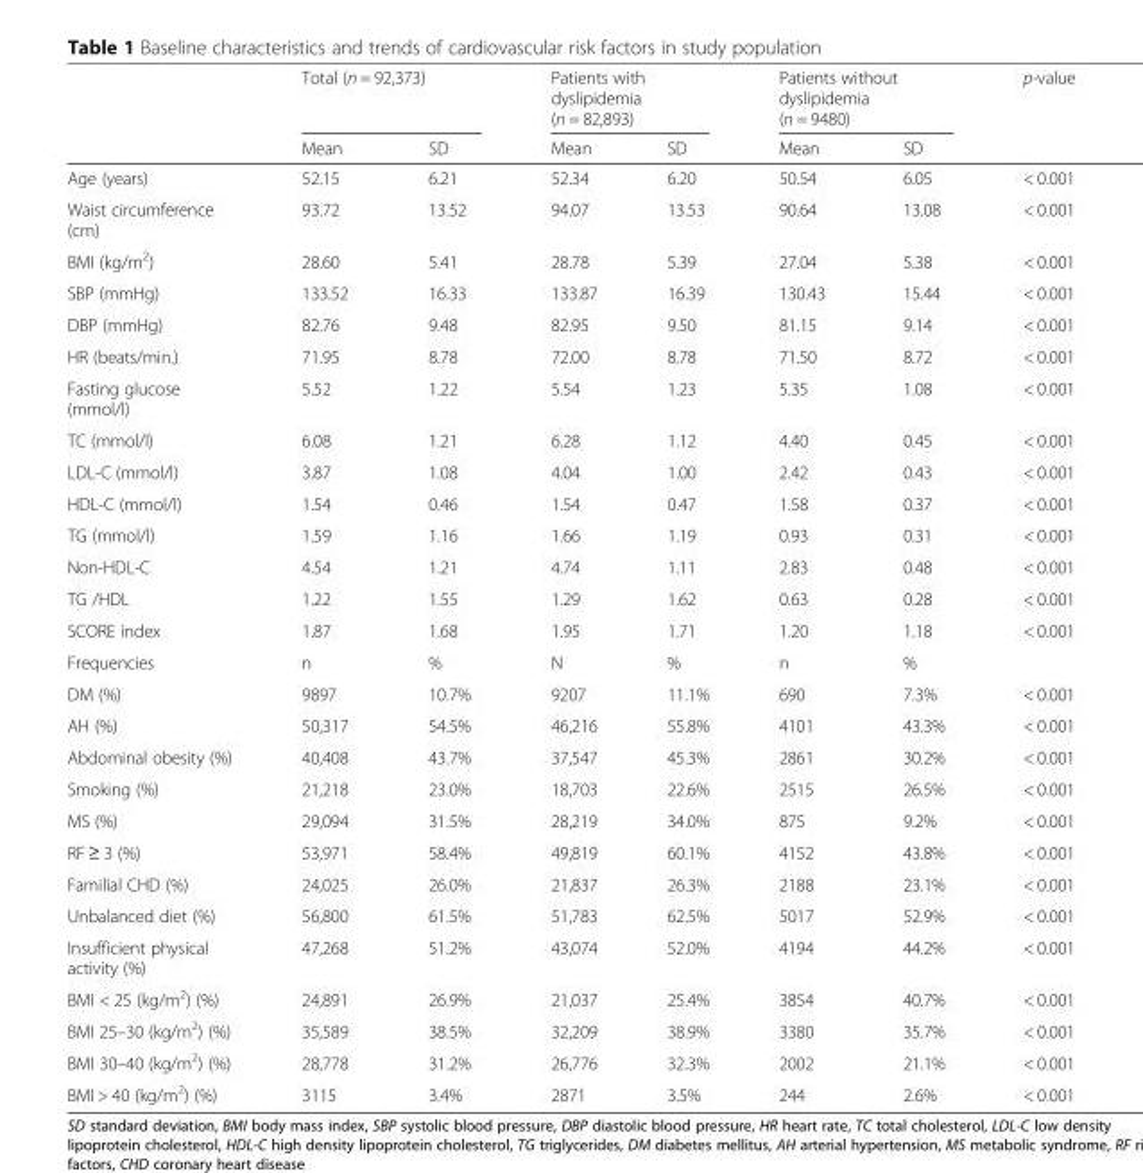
<table><thead><tr><td rowspan="2"></td><td colspan="2">Total (n = 92,373)</td><td colspan="2">Patients with dyslipidemia (n = 82,893)</td><td colspan="2">Patients without dyslipidemia (n = 9480)</td><td rowspan="2">p-value</td></tr><tr><td>Mean</td><td>SD</td><td>Mean</td><td>SD</td><td>Mean</td><td>SD</td></tr></thead><tbody><tr><td>Age (years)</td><td>52.15</td><td>6.21</td><td>52.34</td><td>6.20</td><td>50.54</td><td>6.05</td><td>&lt; 0.001</td></tr><tr><td>Waist circumference (cm)</td><td>93.72</td><td>13.52</td><td>94.07</td><td>13.53</td><td>90.64</td><td>13.08</td><td>&lt; 0.001</td></tr><tr><td>BMI (kg/m<sup>2</sup>)</td><td>28.60</td><td>5.41</td><td>28.78</td><td>5.39</td><td>27.04</td><td>5.38</td><td>&lt; 0.001</td></tr><tr><td>SBP (mmHg)</td><td>133.52</td><td>16.33</td><td>133.87</td><td>16.39</td><td>130.43</td><td>15.44</td><td>&lt; 0.001</td></tr><tr><td>DBP (mmHg)</td><td>82.76</td><td>9.48</td><td>82.95</td><td>9.50</td><td>81.15</td><td>9.14</td><td>&lt; 0.001</td></tr><tr><td>HR (beats/min.)</td><td>71.95</td><td>8.78</td><td>72.00</td><td>8.78</td><td>71.50</td><td>8.72</td><td>&lt; 0.001</td></tr><tr><td>Fasting glucose (mmol/l)</td><td>5.52</td><td>1.22</td><td>5.54</td><td>1.23</td><td>5.35</td><td>1.08</td><td>&lt; 0.001</td></tr><tr><td>TC (mmol/l)</td><td>6.08</td><td>1.21</td><td>6.28</td><td>1.12</td><td>4.40</td><td>0.45</td><td>&lt; 0.001</td></tr><tr><td>LDL-C (mmol/l)</td><td>3.87</td><td>1.08</td><td>4.04</td><td>1.00</td><td>2.42</td><td>0.43</td><td>&lt; 0.001</td></tr><tr><td>HDL-C (mmol/l)</td><td>1.54</td><td>0.46</td><td>1.54</td><td>0.47</td><td>1.58</td><td>0.37</td><td>&lt; 0.001</td></tr><tr><td>TG (mmol/l)</td><td>1.59</td><td>1.16</td><td>1.66</td><td>1.19</td><td>0.93</td><td>0.31</td><td>&lt; 0.001</td></tr><tr><td>Non-HDL-C</td><td>4.54</td><td>1.21</td><td>4.74</td><td>1.11</td><td>2.83</td><td>0.48</td><td>&lt; 0.001</td></tr><tr><td>TG /HDL</td><td>1.22</td><td>1.55</td><td>1.29</td><td>1.62</td><td>0.63</td><td>0.28</td><td>&lt; 0.001</td></tr><tr><td>SCORE index</td><td>1.87</td><td>1.68</td><td>1.95</td><td>1.71</td><td>1.20</td><td>1.18</td><td>&lt; 0.001</td></tr><tr><td>Frequencies</td><td>n</td><td>%</td><td>N</td><td>%</td><td>n</td><td>%</td><td></td></tr><tr><td>DM (%)</td><td>9897</td><td>10.7%</td><td>9207</td><td>11.1%</td><td>690</td><td>7.3%</td><td>&lt; 0.001</td></tr><tr><td>AH (%)</td><td>50,317</td><td>54.5%</td><td>46,216</td><td>55.8%</td><td>4101</td><td>43.3%</td><td>&lt; 0.001</td></tr><tr><td>Abdominal obesity (%)</td><td>40,408</td><td>43.7%</td><td>37,547</td><td>45.3%</td><td>2861</td><td>30.2%</td><td>&lt; 0.001</td></tr><tr><td>Smoking (%)</td><td>21,218</td><td>23.0%</td><td>18,703</td><td>22.6%</td><td>2515</td><td>26.5%</td><td>&lt; 0.001</td></tr><tr><td>MS (%)</td><td>29,094</td><td>31.5%</td><td>28,219</td><td>34.0%</td><td>875</td><td>9.2%</td><td>&lt; 0.001</td></tr><tr><td>RF ≥ 3 (%)</td><td>53,971</td><td>58.4%</td><td>49,819</td><td>60.1%</td><td>4152</td><td>43.8%</td><td>&lt; 0.001</td></tr><tr><td>Familial CHD (%)</td><td>24,025</td><td>26.0%</td><td>21,837</td><td>26.3%</td><td>2188</td><td>23.1%</td><td>&lt; 0.001</td></tr><tr><td>Unbalanced diet (%)</td><td>56,800</td><td>61.5%</td><td>51,783</td><td>62.5%</td><td>5017</td><td>52.9%</td><td>&lt; 0.001</td></tr><tr><td>Insufficient physical activity (%)</td><td>47,268</td><td>51.2%</td><td>43,074</td><td>52.0%</td><td>4194</td><td>44.2%</td><td>&lt; 0.001</td></tr><tr><td>BMI &lt; 25 (kg/m<sup>2</sup>) (%)</td><td>24,891</td><td>26.9%</td><td>21,037</td><td>25.4%</td><td>3854</td><td>40.7%</td><td>&lt; 0.001</td></tr><tr><td>BMI 25–30 (kg/m<sup>2</sup>) (%)</td><td>35,589</td><td>38.5%</td><td>32,209</td><td>38.9%</td><td>3380</td><td>35.7%</td><td>&lt; 0.001</td></tr><tr><td>BMI 30–40 (kg/m<sup>2</sup>) (%)</td><td>28,778</td><td>31.2%</td><td>26,776</td><td>32.3%</td><td>2002</td><td>21.1%</td><td>&lt; 0.001</td></tr><tr><td>BMI &gt; 40 (kg/m<sup>2</sup>) (%)</td><td>3115</td><td>3.4%</td><td>2871</td><td>3.5%</td><td>244</td><td>2.6%</td><td>&lt; 0.001</td></tr></tbody></table>